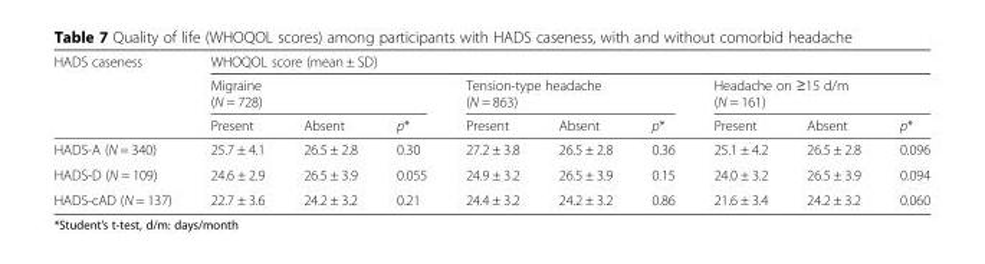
<table><thead><tr><td rowspan="3">HADS caseness</td><td colspan="9">WHOQOL score (mean ± SD)</td></tr><tr><td colspan="3">Migraine (N = 728)</td><td colspan="3">Tension-type headache (N = 863)</td><td colspan="3">Headache on ≥15 d/m (N = 161)</td></tr><tr><td>Present</td><td>Absent</td><td>p*</td><td>Present</td><td>Absent</td><td>p*</td><td>Present</td><td>Absent</td><td>p*</td></tr></thead><tbody><tr><td>HADS-A (N = 340)</td><td>25.7 ± 4.1</td><td>26.5 ± 2.8</td><td>0.30</td><td>27.2 ± 3.8</td><td>26.5 ± 2.8</td><td>0.36</td><td>25.1 ± 4.2</td><td>26.5 ± 2.8</td><td>0.096</td></tr><tr><td>HADS-D (N = 109)</td><td>24.6 ± 2.9</td><td>26.5 ± 3.9</td><td>0.055</td><td>24.9 ± 3.2</td><td>26.5 ± 3.9</td><td>0.15</td><td>24.0 ± 3.2</td><td>26.5 ± 3.9</td><td>0.094</td></tr><tr><td>HADS-cAD (N = 137)</td><td>22.7 ± 3.6</td><td>24.2 ± 3.2</td><td>0.21</td><td>24.4 ± 3.2</td><td>24.2 ± 3.2</td><td>0.86</td><td>21.6 ± 3.4</td><td>24.2 ± 3.2</td><td>0.060</td></tr></tbody></table>